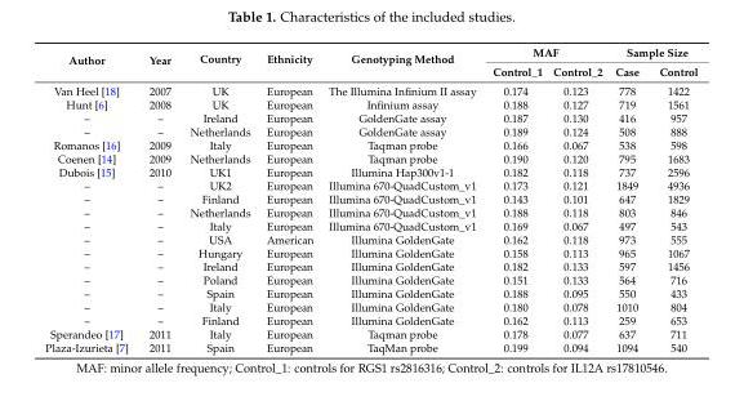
<table><thead><tr><td rowspan="2">Author</td><td rowspan="2">Year</td><td rowspan="2">Country</td><td rowspan="2">Ethnicity</td><td rowspan="2">Genotyping Method</td><td colspan="2">MAF</td><td colspan="2">Sample Size</td></tr><tr><td>Control_1</td><td>Control_2</td><td>Case</td><td>Control</td></tr></thead><tbody><tr><td>Van Heel [18]</td><td>2007</td><td>UK</td><td>European</td><td>The Illumina Infinium II assay</td><td>0.174</td><td>0.123</td><td>778</td><td>1422</td></tr><tr><td>Hunt [6]</td><td>2008</td><td>UK</td><td>European</td><td>Infinium assay</td><td>0.188</td><td>0.127</td><td>719</td><td>1561</td></tr><tr><td>–</td><td>–</td><td>Ireland</td><td>European</td><td>GoldenGate assay</td><td>0.187</td><td>0.130</td><td>416</td><td>957</td></tr><tr><td>–</td><td>–</td><td>Netherlands</td><td>European</td><td>GoldenGate assay</td><td>0.189</td><td>0.124</td><td>508</td><td>888</td></tr><tr><td>Romanos [16]</td><td>2009</td><td>Italy</td><td>European</td><td>Taqman probe</td><td>0.166</td><td>0.067</td><td>538</td><td>598</td></tr><tr><td>Coenen [14]</td><td>2009</td><td>Netherlands</td><td>European</td><td>Taqman probe</td><td>0.190</td><td>0.120</td><td>795</td><td>1683</td></tr><tr><td>Dubois [15]</td><td>2010</td><td>UK1</td><td>European</td><td>Illumina Hap300v1-1</td><td>0.182</td><td>0.118</td><td>737</td><td>2596</td></tr><tr><td>–</td><td>–</td><td>UK2</td><td>European</td><td>Illumina 670-QuadCustom_v1</td><td>0.173</td><td>0.121</td><td>1849</td><td>4936</td></tr><tr><td>–</td><td>–</td><td>Finland</td><td>European</td><td>Illumina 670-QuadCustom_v1</td><td>0.143</td><td>0.101</td><td>647</td><td>1829</td></tr><tr><td>–</td><td>–</td><td>Netherlands</td><td>European</td><td>Illumina 670-QuadCustom_v1</td><td>0.188</td><td>0.118</td><td>803</td><td>846</td></tr><tr><td>–</td><td>–</td><td>Italy</td><td>European</td><td>Illumina 670-QuadCustom_v1</td><td>0.169</td><td>0.067</td><td>497</td><td>543</td></tr><tr><td>–</td><td>–</td><td>USA</td><td>American</td><td>Illumina GoldenGate</td><td>0.162</td><td>0.118</td><td>973</td><td>555</td></tr><tr><td>–</td><td>–</td><td>Hungary</td><td>European</td><td>Illumina GoldenGate</td><td>0.158</td><td>0.113</td><td>965</td><td>1067</td></tr><tr><td>–</td><td>–</td><td>Ireland</td><td>European</td><td>Illumina GoldenGate</td><td>0.182</td><td>0.133</td><td>597</td><td>1456</td></tr><tr><td>–</td><td>–</td><td>Poland</td><td>European</td><td>Illumina GoldenGate</td><td>0.151</td><td>0.133</td><td>564</td><td>716</td></tr><tr><td>–</td><td>–</td><td>Spain</td><td>European</td><td>Illumina GoldenGate</td><td>0.188</td><td>0.095</td><td>550</td><td>433</td></tr><tr><td>–</td><td>–</td><td>Italy</td><td>European</td><td>Illumina GoldenGate</td><td>0.180</td><td>0.078</td><td>1010</td><td>804</td></tr><tr><td>–</td><td>–</td><td>Finland</td><td>European</td><td>Illumina GoldenGate</td><td>0.162</td><td>0.113</td><td>259</td><td>653</td></tr><tr><td>Sperandeo [17]</td><td>2011</td><td>Italy</td><td>European</td><td>Taqman probe</td><td>0.178</td><td>0.077</td><td>637</td><td>711</td></tr><tr><td>Plaza-Izurieta [7]</td><td>2011</td><td>Spain</td><td>European</td><td>TaqMan probe</td><td>0.199</td><td>0.094</td><td>1094</td><td>540</td></tr></tbody></table>